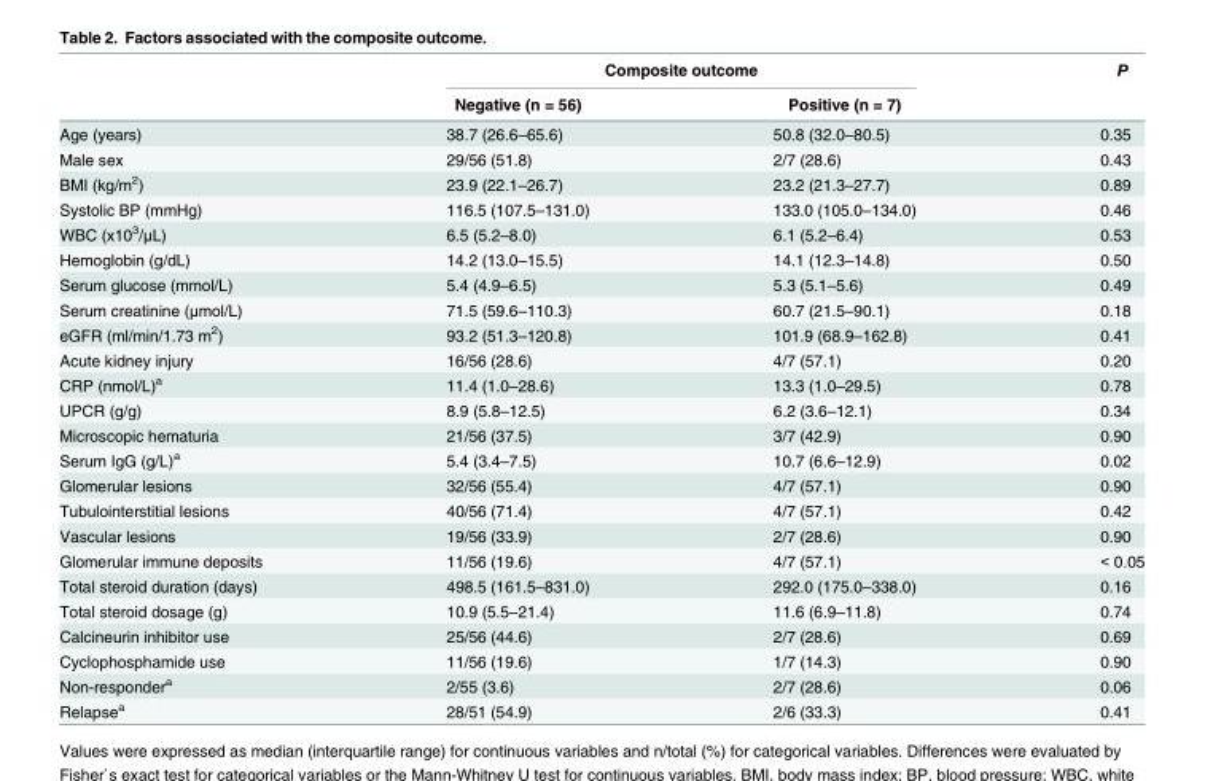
<table><thead><tr><td rowspan="2"></td><td colspan="2">Composite outcome</td><td rowspan="2">P</td></tr><tr><td>Negative (n = 56)</td><td>Positive (n = 7)</td></tr></thead><tbody><tr><td>Age (years)</td><td>38.7 (26.6–65.6)</td><td>50.8 (32.0–80.5)</td><td>0.35</td></tr><tr><td>Male sex</td><td>29/56 (51.8)</td><td>2/7 (28.6)</td><td>0.43</td></tr><tr><td>BMI (kg/m<sup>2</sup>)</td><td>23.9 (22.1–26.7)</td><td>23.2 (21.3–27.7)</td><td>0.89</td></tr><tr><td>Systolic BP (mmHg)</td><td>116.5 (107.5–131.0)</td><td>133.0 (105.0–134.0)</td><td>0.46</td></tr><tr><td>WBC (x10<sup>3</sup>/μL)</td><td>6.5 (5.2–8.0)</td><td>6.1 (5.2–6.4)</td><td>0.53</td></tr><tr><td>Hemoglobin (g/dL)</td><td>14.2 (13.0–15.5)</td><td>14.1 (12.3–14.8)</td><td>0.50</td></tr><tr><td>Serum glucose (mmol/L)</td><td>5.4 (4.9–6.5)</td><td>5.3 (5.1–5.6)</td><td>0.49</td></tr><tr><td>Serum creatinine (μmol/L)</td><td>71.5 (59.6–110.3)</td><td>60.7 (21.5–90.1)</td><td>0.18</td></tr><tr><td>eGFR (ml/min/1.73 m<sup>2</sup>)</td><td>93.2 (51.3–120.8)</td><td>101.9 (68.9–162.8)</td><td>0.41</td></tr><tr><td>Acute kidney injury</td><td>16/56 (28.6)</td><td>4/7 (57.1)</td><td>0.20</td></tr><tr><td>CRP (nmol/L)<sup>a</sup></td><td>11.4 (1.0–28.6)</td><td>13.3 (1.0–29.5)</td><td>0.78</td></tr><tr><td>UPCR (g/g)</td><td>8.9 (5.8–12.5)</td><td>6.2 (3.6–12.1)</td><td>0.34</td></tr><tr><td>Microscopic hematuria</td><td>21/56 (37.5)</td><td>3/7 (42.9)</td><td>0.90</td></tr><tr><td>Serum IgG (g/L)<sup>a</sup></td><td>5.4 (3.4–7.5)</td><td>10.7 (6.6–12.9)</td><td>0.02</td></tr><tr><td>Glomerular lesions</td><td>32/56 (55.4)</td><td>4/7 (57.1)</td><td>0.90</td></tr><tr><td>Tubulointerstitial lesions</td><td>40/56 (71.4)</td><td>4/7 (57.1)</td><td>0.42</td></tr><tr><td>Vascular lesions</td><td>19/56 (33.9)</td><td>2/7 (28.6)</td><td>0.90</td></tr><tr><td>Glomerular immune deposits</td><td>11/56 (19.6)</td><td>4/7 (57.1)</td><td>&lt; 0.05</td></tr><tr><td>Total steroid duration (days)</td><td>498.5 (161.5–831.0)</td><td>292.0 (175.0–338.0)</td><td>0.16</td></tr><tr><td>Total steroid dosage (g)</td><td>10.9 (5.5–21.4)</td><td>11.6 (6.9–11.8)</td><td>0.74</td></tr><tr><td>Calcineurin inhibitor use</td><td>25/56 (44.6)</td><td>2/7 (28.6)</td><td>0.69</td></tr><tr><td>Cyclophosphamide use</td><td>11/56 (19.6)</td><td>1/7 (14.3)</td><td>0.90</td></tr><tr><td>Non-responder<sup>a</sup></td><td>2/55 (3.6)</td><td>2/7 (28.6)</td><td>0.06</td></tr><tr><td>Relapse<sup>a</sup></td><td>28/51 (54.9)</td><td>2/6 (33.3)</td><td>0.41</td></tr></tbody></table>